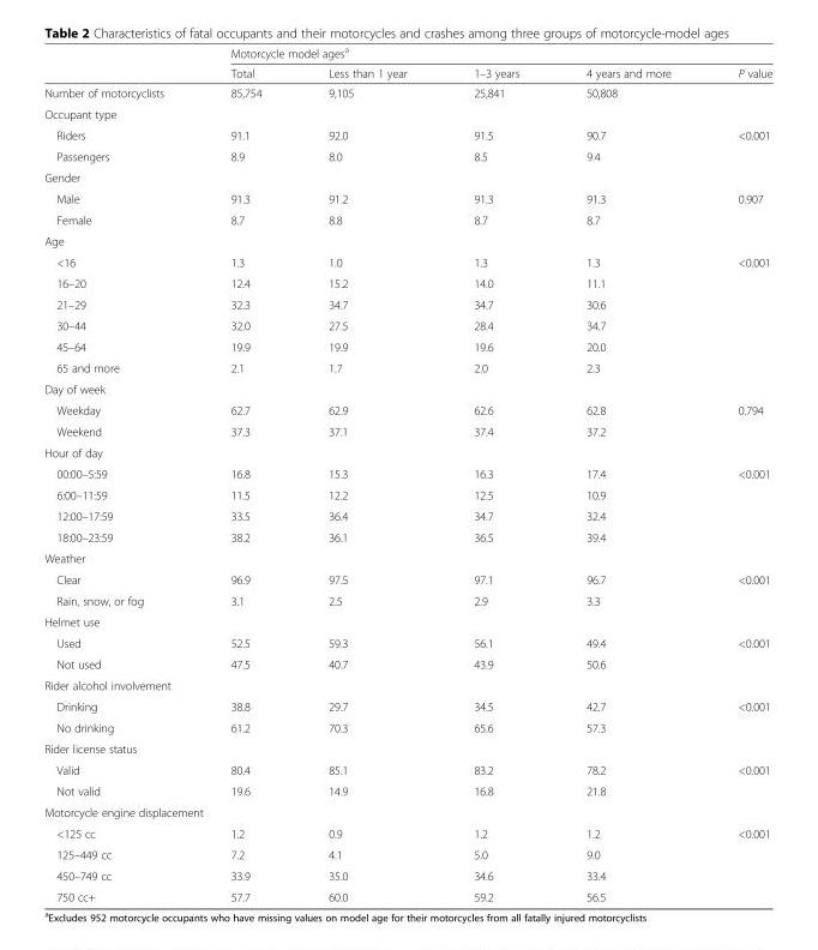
<table><thead><tr><td rowspan="2"></td><td colspan="5">Motorcycle model ages<sup>a</sup></td></tr><tr><td>Total</td><td>Less than 1 year</td><td>1–3 years</td><td>4 years and more</td><td>P value</td></tr></thead><tbody><tr><td>Number of motorcyclists</td><td>85,754</td><td>9,105</td><td>25,841</td><td>50,808</td><td></td></tr><tr><td colspan="6">Occupant type</td></tr><tr><td>Riders</td><td>91.1</td><td>92.0</td><td>91.5</td><td>90.7</td><td rowspan="2">&lt;0.001</td></tr><tr><td>Passengers</td><td>8.9</td><td>8.0</td><td>8.5</td><td>9.4</td></tr><tr><td colspan="6">Gender</td></tr><tr><td>Male</td><td>91.3</td><td>91.2</td><td>91.3</td><td>91.3</td><td rowspan="2">0.907</td></tr><tr><td>Female</td><td>8.7</td><td>8.8</td><td>8.7</td><td>8.7</td></tr><tr><td colspan="6">Age</td></tr><tr><td>&lt;16</td><td>1.3</td><td>1.0</td><td>1.3</td><td>1.3</td><td rowspan="6">&lt;0.001</td></tr><tr><td>16–20</td><td>12.4</td><td>15.2</td><td>14.0</td><td>11.1</td></tr><tr><td>21–29</td><td>32.3</td><td>34.7</td><td>34.7</td><td>30.6</td></tr><tr><td>30–44</td><td>32.0</td><td>27.5</td><td>28.4</td><td>34.7</td></tr><tr><td>45–64</td><td>19.9</td><td>19.9</td><td>19.6</td><td>20.0</td></tr><tr><td>65 and more</td><td>2.1</td><td>1.7</td><td>2.0</td><td>2.3</td></tr><tr><td colspan="6">Day of week</td></tr><tr><td>Weekday</td><td>62.7</td><td>62.9</td><td>62.6</td><td>62.8</td><td rowspan="2">0.794</td></tr><tr><td>Weekend</td><td>37.3</td><td>37.1</td><td>37.4</td><td>37.2</td></tr><tr><td colspan="6">Hour of day</td></tr><tr><td>00:00–5:59</td><td>16.8</td><td>15.3</td><td>16.3</td><td>17.4</td><td rowspan="4">&lt;0.001</td></tr><tr><td>6:00–11:59</td><td>11.5</td><td>12.2</td><td>12.5</td><td>10.9</td></tr><tr><td>12:00–17:59</td><td>33.5</td><td>36.4</td><td>34.7</td><td>32.4</td></tr><tr><td>18:00–23:59</td><td>38.2</td><td>36.1</td><td>36.5</td><td>39.4</td></tr><tr><td colspan="6">Weather</td></tr><tr><td>Clear</td><td>96.9</td><td>97.5</td><td>97.1</td><td>96.7</td><td rowspan="2">&lt;0.001</td></tr><tr><td>Rain, snow, or fog</td><td>3.1</td><td>2.5</td><td>2.9</td><td>3.3</td></tr><tr><td colspan="6">Helmet use</td></tr><tr><td>Used</td><td>52.5</td><td>59.3</td><td>56.1</td><td>49.4</td><td rowspan="2">&lt;0.001</td></tr><tr><td>Not used</td><td>47.5</td><td>40.7</td><td>43.9</td><td>50.6</td></tr><tr><td colspan="6">Rider alcohol involvement</td></tr><tr><td>Drinking</td><td>38.8</td><td>29.7</td><td>34.5</td><td>42.7</td><td rowspan="2">&lt;0.001</td></tr><tr><td>No drinking</td><td>61.2</td><td>70.3</td><td>65.6</td><td>57.3</td></tr><tr><td colspan="6">Rider license status</td></tr><tr><td>Valid</td><td>80.4</td><td>85.1</td><td>83.2</td><td>78.2</td><td rowspan="2">&lt;0.001</td></tr><tr><td>Not valid</td><td>19.6</td><td>14.9</td><td>16.8</td><td>21.8</td></tr><tr><td colspan="6">Motorcycle engine displacement</td></tr><tr><td>&lt;125 cc</td><td>1.2</td><td>0.9</td><td>1.2</td><td>1.2</td><td rowspan="4">&lt;0.001</td></tr><tr><td>125–449 cc</td><td>7.2</td><td>4.1</td><td>5.0</td><td>9.0</td></tr><tr><td>450–749 cc</td><td>33.9</td><td>35.0</td><td>34.6</td><td>33.4</td></tr><tr><td>750 cc+</td><td>57.7</td><td>60.0</td><td>59.2</td><td>56.5</td></tr></tbody></table>